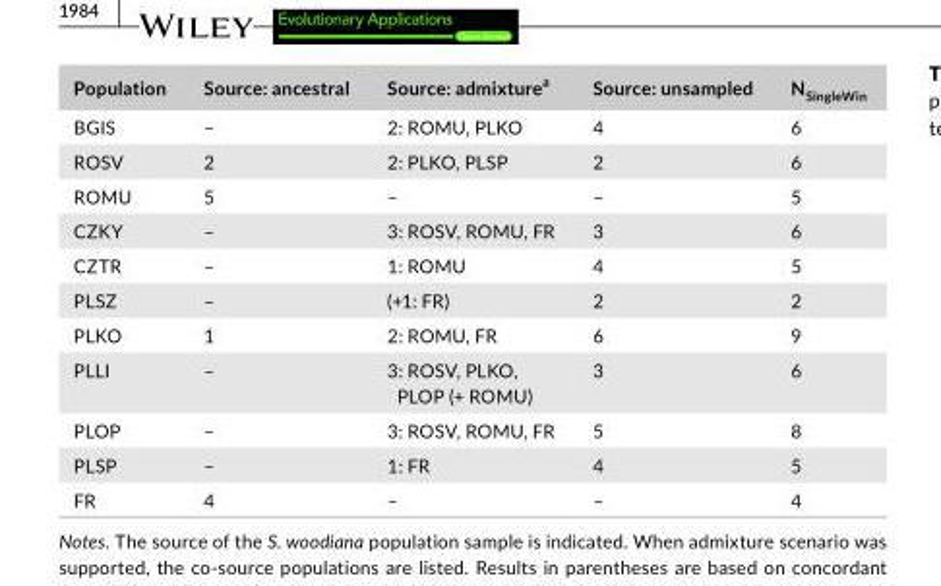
<table><thead><tr><td>Population</td><td>Source: ancestral</td><td>Source: admixture<sup>a</sup></td><td>Source: unsampled</td><td>N<sub>SingleWin</sub></td></tr></thead><tbody><tr><td>BGIS</td><td>–</td><td>2: ROMU, PLKO</td><td>4</td><td>6</td></tr><tr><td>ROSV</td><td>2</td><td>2: PLKO, PLSP</td><td>2</td><td>6</td></tr><tr><td>ROMU</td><td>5</td><td>–</td><td>–</td><td>5</td></tr><tr><td>CZKY</td><td>–</td><td>3: ROSV, ROMU, FR</td><td>3</td><td>6</td></tr><tr><td>CZTR</td><td>–</td><td>1: ROMU</td><td>4</td><td>5</td></tr><tr><td>PLSZ</td><td>–</td><td>(+1: FR)</td><td>2</td><td>2</td></tr><tr><td>PLKO</td><td>1</td><td>2: ROMU, FR</td><td>6</td><td>9</td></tr><tr><td>PLLI</td><td>–</td><td>3: ROSV, PLKO, PLOP (+ ROMU)</td><td>3</td><td>6</td></tr><tr><td>PLOP</td><td>–</td><td>3: ROSV, ROMU, FR</td><td>5</td><td>8</td></tr><tr><td>PLSP</td><td>–</td><td>1: FR</td><td>4</td><td>5</td></tr><tr><td>FR</td><td>4</td><td>–</td><td>–</td><td>4</td></tr></tbody></table>